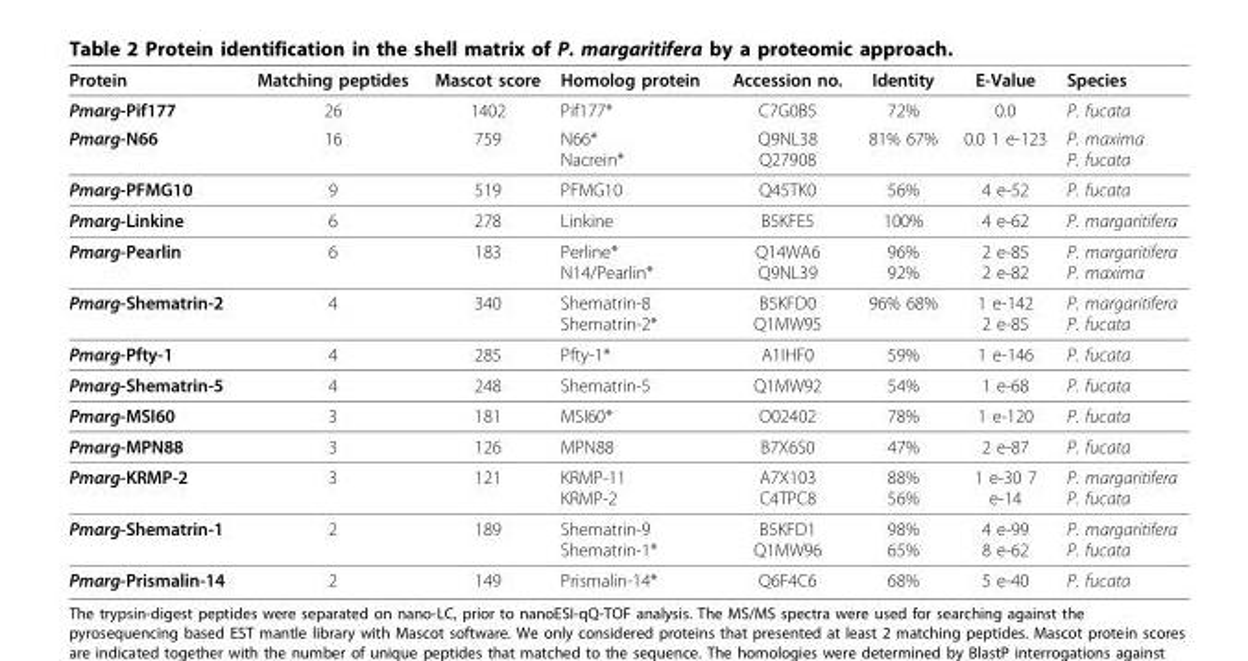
<table><thead><tr><td>Protein</td><td>Matching peptides</td><td>Mascot score</td><td>Homolog protein</td><td>Accession no.</td><td>Identity</td><td>E-Value</td><td>Species</td></tr></thead><tbody><tr><td>Pmarg-Pif177</td><td>26</td><td>1402</td><td>Pif177*</td><td>C7G0B5</td><td>72%</td><td>0.0</td><td>P. fucata</td></tr><tr><td>Pmarg-N66</td><td>16</td><td>759</td><td>N66* Nacrein*</td><td>Q9NL38 Q27908</td><td>81% 67%</td><td>0.0 1 e-123</td><td>P. maxima P. fucata</td></tr><tr><td>Pmarg-PFMG10</td><td>9</td><td>519</td><td>PFMG10</td><td>Q45TK0</td><td>56%</td><td>4 e-52</td><td>P. fucata</td></tr><tr><td>Pmarg-Linkine</td><td>6</td><td>278</td><td>Linkine</td><td>B5KFE5</td><td>100%</td><td>4 e-62</td><td>P. margaritifera</td></tr><tr><td>Pmarg-Pearlin</td><td>6</td><td>183</td><td>Perline* N14/Pearlin*</td><td>Q14WA6 Q9NL39</td><td>96% 92%</td><td>2 e-85 2 e-82</td><td>P. margaritifera P. maxima</td></tr><tr><td>Pmarg-Shematrin-2</td><td>4</td><td>340</td><td>Shematrin-8 Shematrin-2*</td><td>B5KFD0 Q1MW95</td><td>96% 68%</td><td>1 e-142 2 e-85</td><td>P. margaritifera P. fucata</td></tr><tr><td>Pmarg-Pfty-1</td><td>4</td><td>285</td><td>Pfty-1*</td><td>A1IHF0</td><td>59%</td><td>1 e-146</td><td>P. fucata</td></tr><tr><td>Pmarg-Shematrin-5</td><td>4</td><td>248</td><td>Shematrin-5</td><td>Q1MW92</td><td>54%</td><td>1 e-68</td><td>P. fucata</td></tr><tr><td>Pmarg-MSI60</td><td>3</td><td>181</td><td>MSI60*</td><td>O02402</td><td>78%</td><td>1 e-120</td><td>P. fucata</td></tr><tr><td>Pmarg-MPN88</td><td>3</td><td>126</td><td>MPN88</td><td>B7X6S0</td><td>47%</td><td>2 e-87</td><td>P. fucata</td></tr><tr><td>Pmarg-KRMP-2</td><td>3</td><td>121</td><td>KRMP-11 KRMP-2</td><td>A7X103 C4TPC8</td><td>88% 56%</td><td>1 e-30 7 e-14</td><td>P. margaritifera P. fucata</td></tr><tr><td>Pmarg-Shematrin-1</td><td>2</td><td>189</td><td>Shematrin-9 Shematrin-1*</td><td>B5KFD1 Q1MW96</td><td>98% 65%</td><td>4 e-99 8 e-62</td><td>P. margaritifera P. fucata</td></tr><tr><td>Pmarg-Prismalin-14</td><td>2</td><td>149</td><td>Prismalin-14*</td><td>Q6F4C6</td><td>68%</td><td>5 e-40</td><td>P. fucata</td></tr></tbody></table>